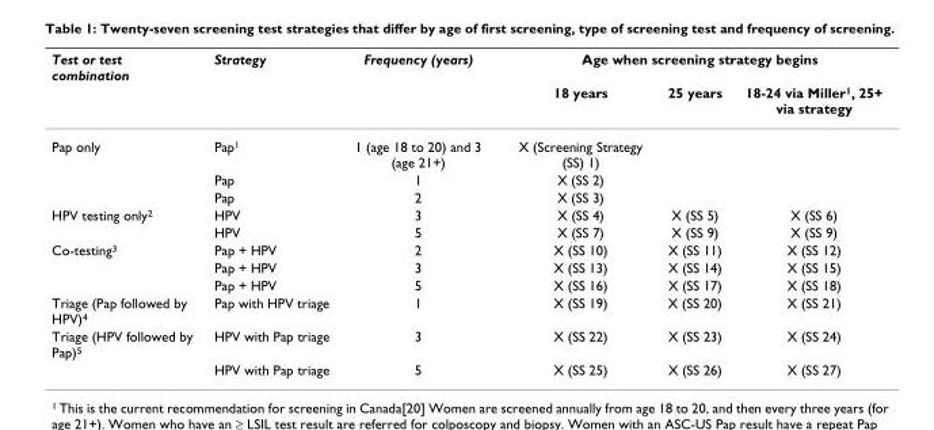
<table><thead><tr><td rowspan="2">Test or test combination</td><td rowspan="2">Strategy</td><td rowspan="2">Frequency (years)</td><td colspan="3">Age when screening strategy begins</td></tr><tr><td>18 years</td><td>25 years</td><td>18-24 via Miller<sup>1</sup>, 25+ via strategy</td></tr></thead><tbody><tr><td rowspan="3">Pap only</td><td>Pap<sup>1</sup></td><td>1 (age 18 to 20) and 3 (age 21+)</td><td>X (Screening Strategy (SS) 1)</td><td></td><td></td></tr><tr><td>Pap</td><td>1</td><td>X (SS 2)</td><td></td><td></td></tr><tr><td>Pap</td><td>2</td><td>X (SS 3)</td><td></td><td></td></tr><tr><td rowspan="2">HPV testing only<sup>2</sup></td><td>HPV</td><td>3</td><td>X (SS 4)</td><td>X (SS 5)</td><td>X (SS 6)</td></tr><tr><td>HPV</td><td>5</td><td>X (SS 7)</td><td>X (SS 9)</td><td>X (SS 9)</td></tr><tr><td rowspan="3">Co-testing<sup>3</sup></td><td>Pap + HPV</td><td>2</td><td>X (SS 10)</td><td>X (SS 11)</td><td>X (SS 12)</td></tr><tr><td>Pap + HPV</td><td>3</td><td>X (SS 13)</td><td>X (SS 14)</td><td>X (SS 15)</td></tr><tr><td>Pap + HPV</td><td>5</td><td>X (SS 16)</td><td>X (SS 17)</td><td>X (SS 18)</td></tr><tr><td>Triage (Pap followed by HPV)<sup>4</sup></td><td>Pap with HPV triage</td><td>1</td><td>X (SS 19)</td><td>X (SS 20)</td><td>X (SS 21)</td></tr><tr><td rowspan="2">Triage (HPV followed by Pap)<sup>5</sup></td><td>HPV with Pap triage</td><td>3</td><td>X (SS 22)</td><td>X (SS 23)</td><td>X (SS 24)</td></tr><tr><td>HPV with Pap triage</td><td>5</td><td>X (SS 25)</td><td>X (SS 26)</td><td>X (SS 27)</td></tr></tbody></table>